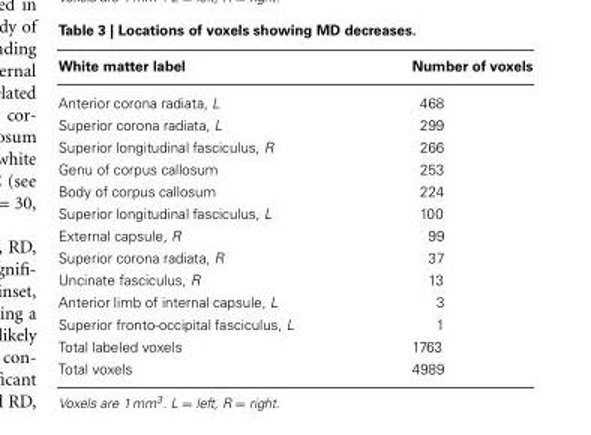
<table><thead><tr><td>White matter label</td><td>Number of voxels</td></tr></thead><tbody><tr><td>Anterior corona radiata, L</td><td>468</td></tr><tr><td>Superior corona radiata, L</td><td>299</td></tr><tr><td>Superior longitudinal fasciculus, R</td><td>266</td></tr><tr><td>Genu of corpus callosum</td><td>253</td></tr><tr><td>Body of corpus callosum</td><td>224</td></tr><tr><td>Superior longitudinal fasciculus, L</td><td>100</td></tr><tr><td>External capsule, R</td><td>99</td></tr><tr><td>Superior corona radiata, R</td><td>37</td></tr><tr><td>Uncinate fasciculus, R</td><td>13</td></tr><tr><td>Anterior limb of internal capsule, L</td><td>3</td></tr><tr><td>Superior fronto-occipital fasciculus, L</td><td>1</td></tr><tr><td>Total labeled voxels</td><td>1763</td></tr><tr><td>Total voxels</td><td>4989</td></tr></tbody></table>